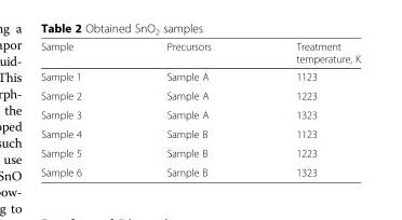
<table><thead><tr><td>Sample</td><td>Precursors</td><td>Treatment temperature, K</td></tr></thead><tbody><tr><td>Sample 1</td><td>Sample A</td><td>1123</td></tr><tr><td>Sample 2</td><td>Sample A</td><td>1223</td></tr><tr><td>Sample 3</td><td>Sample A</td><td>1323</td></tr><tr><td>Sample 4</td><td>Sample B</td><td>1123</td></tr><tr><td>Sample 5</td><td>Sample B</td><td>1223</td></tr><tr><td>Sample 6</td><td>Sample B</td><td>1323</td></tr></tbody></table>